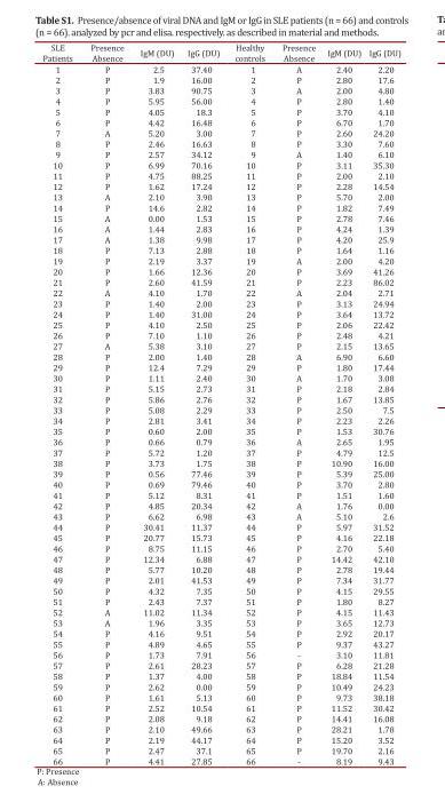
<table><thead><tr><td>SLE Patients</td><td>Presence Absence</td><td>IgM (DU)</td><td>IgG (DU)</td><td>Healthy controls</td><td>Presence Absence</td><td>IgM (DU)</td><td>IgG (DU)</td></tr></thead><tbody><tr><td>1</td><td>P</td><td>2.5</td><td>37.40</td><td>1</td><td>A</td><td>2.40</td><td>2.20</td></tr><tr><td>2</td><td>P</td><td>1.9</td><td>16.00</td><td>2</td><td>P</td><td>2.80</td><td>17.6</td></tr><tr><td>3</td><td>P</td><td>3.83</td><td>90.75</td><td>3</td><td>A</td><td>2.00</td><td>4.80</td></tr><tr><td>4</td><td>P</td><td>5.95</td><td>56.00</td><td>4</td><td>P</td><td>2.80</td><td>1.40</td></tr><tr><td>5</td><td>P</td><td>4.05</td><td>18.3</td><td>5</td><td>P</td><td>3.70</td><td>4.10</td></tr><tr><td>6</td><td>P</td><td>4.42</td><td>16.48</td><td>6</td><td>P</td><td>6.70</td><td>1.70</td></tr><tr><td>7</td><td>A</td><td>5.20</td><td>3.00</td><td>7</td><td>P</td><td>2.60</td><td>24.20</td></tr><tr><td>8</td><td>P</td><td>2.46</td><td>16.63</td><td>8</td><td>P</td><td>3.30</td><td>7.60</td></tr><tr><td>9</td><td>P</td><td>2.57</td><td>34.12</td><td>9</td><td>A</td><td>1.40</td><td>6.10</td></tr><tr><td>10</td><td>P</td><td>6.99</td><td>70.16</td><td>10</td><td>P</td><td>3.11</td><td>35.30</td></tr><tr><td>11</td><td>P</td><td>4.75</td><td>88.25</td><td>11</td><td>P</td><td>2.00</td><td>2.10</td></tr><tr><td>12</td><td>P</td><td>1.62</td><td>17.24</td><td>12</td><td>P</td><td>2.28</td><td>14.54</td></tr><tr><td>13</td><td>A</td><td>2.10</td><td>3.90</td><td>13</td><td>P</td><td>5.70</td><td>2.00</td></tr><tr><td>14</td><td>P</td><td>14.6</td><td>2.82</td><td>14</td><td>P</td><td>1.82</td><td>7.49</td></tr><tr><td>15</td><td>A</td><td>0.00</td><td>1.53</td><td>15</td><td>P</td><td>2.78</td><td>7.46</td></tr><tr><td>16</td><td>A</td><td>1.44</td><td>2.83</td><td>16</td><td>P</td><td>4.24</td><td>1.39</td></tr><tr><td>17</td><td>A</td><td>1.38</td><td>9.98</td><td>17</td><td>P</td><td>4.20</td><td>25.9</td></tr><tr><td>18</td><td>P</td><td>7.13</td><td>2.88</td><td>18</td><td>P</td><td>1.64</td><td>1.16</td></tr><tr><td>19</td><td>P</td><td>2.19</td><td>3.37</td><td>19</td><td>A</td><td>2.00</td><td>4.20</td></tr><tr><td>20</td><td>P</td><td>1.66</td><td>12.36</td><td>20</td><td>P</td><td>3.69</td><td>41.26</td></tr><tr><td>21</td><td>P</td><td>2.60</td><td>41.59</td><td>21</td><td>P</td><td>2.23</td><td>86.02</td></tr><tr><td>22</td><td>A</td><td>4.10</td><td>1.70</td><td>22</td><td>A</td><td>2.04</td><td>2.71</td></tr><tr><td>23</td><td>P</td><td>1.40</td><td>2.00</td><td>23</td><td>P</td><td>3.13</td><td>24.94</td></tr><tr><td>24</td><td>P</td><td>1.40</td><td>31.00</td><td>24</td><td>P</td><td>3.64</td><td>13.72</td></tr><tr><td>25</td><td>P</td><td>4.10</td><td>2.50</td><td>25</td><td>P</td><td>2.06</td><td>22.42</td></tr><tr><td>26</td><td>P</td><td>7.10</td><td>1.10</td><td>26</td><td>P</td><td>2.48</td><td>4.21</td></tr><tr><td>27</td><td>A</td><td>5.38</td><td>3.10</td><td>27</td><td>P</td><td>2.15</td><td>13.65</td></tr><tr><td>28</td><td>P</td><td>2.00</td><td>1.40</td><td>28</td><td>A</td><td>6.90</td><td>6.60</td></tr><tr><td>29</td><td>P</td><td>12.4</td><td>7.29</td><td>29</td><td>P</td><td>1.80</td><td>17.44</td></tr><tr><td>30</td><td>P</td><td>1.11</td><td>2.40</td><td>30</td><td>A</td><td>1.70</td><td>3.08</td></tr><tr><td>31</td><td>P</td><td>5.15</td><td>2.73</td><td>31</td><td>P</td><td>2.18</td><td>2.84</td></tr><tr><td>32</td><td>P</td><td>5.86</td><td>2.76</td><td>32</td><td>P</td><td>1.67</td><td>13.85</td></tr><tr><td>33</td><td>P</td><td>5.08</td><td>2.29</td><td>33</td><td>P</td><td>2.50</td><td>7.5</td></tr><tr><td>34</td><td>P</td><td>2.81</td><td>3.41</td><td>34</td><td>P</td><td>2.23</td><td>2.26</td></tr><tr><td>35</td><td>P</td><td>0.60</td><td>2.00</td><td>35</td><td>P</td><td>1.53</td><td>30.76</td></tr><tr><td>36</td><td>P</td><td>0.66</td><td>0.79</td><td>36</td><td>A</td><td>2.65</td><td>1.95</td></tr><tr><td>37</td><td>P</td><td>5.72</td><td>1.20</td><td>37</td><td>P</td><td>4.79</td><td>12.5</td></tr><tr><td>38</td><td>P</td><td>3.73</td><td>1.75</td><td>38</td><td>P</td><td>10.90</td><td>16.00</td></tr><tr><td>39</td><td>P</td><td>0.56</td><td>77.46</td><td>39</td><td>P</td><td>5.39</td><td>25.00</td></tr><tr><td>40</td><td>P</td><td>0.69</td><td>79.46</td><td>40</td><td>P</td><td>3.70</td><td>2.80</td></tr><tr><td>41</td><td>P</td><td>5.12</td><td>8.31</td><td>41</td><td>P</td><td>1.51</td><td>1.60</td></tr><tr><td>42</td><td>P</td><td>4.85</td><td>20.34</td><td>42</td><td>A</td><td>1.76</td><td>0.00</td></tr><tr><td>43</td><td>P</td><td>6.62</td><td>6.98</td><td>43</td><td>A</td><td>5.10</td><td>2.6</td></tr><tr><td>44</td><td>P</td><td>30.41</td><td>11.37</td><td>44</td><td>P</td><td>5.97</td><td>31.52</td></tr><tr><td>45</td><td>P</td><td>20.77</td><td>15.73</td><td>45</td><td>P</td><td>4.16</td><td>22.18</td></tr><tr><td>46</td><td>P</td><td>8.75</td><td>11.15</td><td>46</td><td>P</td><td>2.70</td><td>5.40</td></tr><tr><td>47</td><td>P</td><td>12.34</td><td>6.88</td><td>47</td><td>P</td><td>14.42</td><td>42.10</td></tr><tr><td>48</td><td>P</td><td>5.77</td><td>10.20</td><td>48</td><td>P</td><td>2.78</td><td>19.44</td></tr><tr><td>49</td><td>P</td><td>2.01</td><td>41.53</td><td>49</td><td>P</td><td>7.34</td><td>31.77</td></tr><tr><td>50</td><td>P</td><td>4.32</td><td>7.35</td><td>50</td><td>P</td><td>4.15</td><td>29.55</td></tr><tr><td>51</td><td>P</td><td>2.43</td><td>7.37</td><td>51</td><td>P</td><td>1.80</td><td>8.27</td></tr><tr><td>52</td><td>A</td><td>11.02</td><td>11.34</td><td>52</td><td>P</td><td>4.15</td><td>11.43</td></tr><tr><td>53</td><td>A</td><td>1.96</td><td>3.35</td><td>53</td><td>P</td><td>3.65</td><td>12.73</td></tr><tr><td>54</td><td>P</td><td>4.16</td><td>9.51</td><td>54</td><td>P</td><td>2.92</td><td>20.17</td></tr><tr><td>55</td><td>P</td><td>4.89</td><td>4.65</td><td>55</td><td>P</td><td>9.37</td><td>43.27</td></tr><tr><td>56</td><td>P</td><td>1.73</td><td>7.91</td><td>56</td><td>-</td><td>3.10</td><td>11.81</td></tr><tr><td>57</td><td>P</td><td>2.61</td><td>28.23</td><td>57</td><td>P</td><td>6.28</td><td>21.28</td></tr><tr><td>58</td><td>P</td><td>1.37</td><td>4.00</td><td>58</td><td>P</td><td>18.84</td><td>11.54</td></tr><tr><td>59</td><td>P</td><td>2.62</td><td>0.00</td><td>59</td><td>P</td><td>10.49</td><td>24.23</td></tr><tr><td>60</td><td>P</td><td>1.61</td><td>5.13</td><td>60</td><td>P</td><td>9.73</td><td>38.18</td></tr><tr><td>61</td><td>P</td><td>2.52</td><td>10.54</td><td>61</td><td>P</td><td>11.52</td><td>30.42</td></tr><tr><td>62</td><td>P</td><td>2.08</td><td>9.18</td><td>62</td><td>P</td><td>14.41</td><td>16.08</td></tr><tr><td>63</td><td>P</td><td>2.10</td><td>49.66</td><td>63</td><td>P</td><td>28.21</td><td>1.78</td></tr><tr><td>64</td><td>P</td><td>2.19</td><td>44.17</td><td>64</td><td>P</td><td>15.20</td><td>3.52</td></tr><tr><td>65</td><td>P</td><td>2.47</td><td>37.1</td><td>65</td><td>P</td><td>19.70</td><td>2.16</td></tr><tr><td>66</td><td>P</td><td>4.41</td><td>27.85</td><td>66</td><td>-</td><td>8.19</td><td>9.43</td></tr></tbody></table>